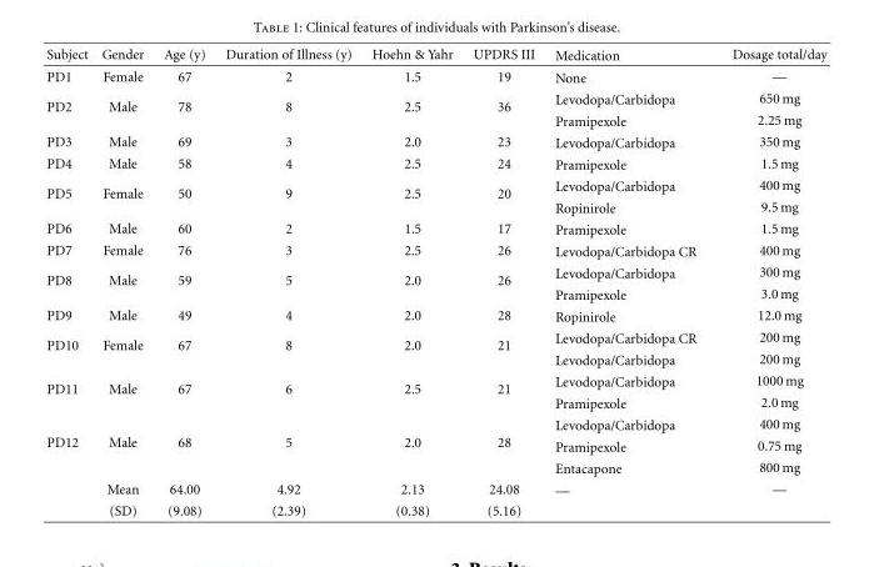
<table><thead><tr><td>Subject</td><td>Gender</td><td>Age (y)</td><td>Duration of Illness (y)</td><td>Hoehn &amp; Yahr</td><td>UPDRS III</td><td>Medication</td><td>Dosage total/day</td></tr></thead><tbody><tr><td>PD1</td><td>Female</td><td>67</td><td>2</td><td>1.5</td><td>19</td><td>None</td><td>—</td></tr><tr><td rowspan="2">PD2</td><td rowspan="2">Male</td><td rowspan="2">78</td><td rowspan="2">8</td><td rowspan="2">2.5</td><td rowspan="2">36</td><td>Levodopa/Carbidopa</td><td>650 mg</td></tr><tr><td>Pramipexole</td><td>2.25 mg</td></tr><tr><td>PD3</td><td>Male</td><td>69</td><td>3</td><td>2.0</td><td>23</td><td>Levodopa/Carbidopa</td><td>350 mg</td></tr><tr><td>PD4</td><td>Male</td><td>58</td><td>4</td><td>2.5</td><td>24</td><td>Pramipexole</td><td>1.5 mg</td></tr><tr><td rowspan="2">PD5</td><td rowspan="2">Female</td><td rowspan="2">50</td><td rowspan="2">9</td><td rowspan="2">2.5</td><td rowspan="2">20</td><td>Levodopa/Carbidopa</td><td>400 mg</td></tr><tr><td>Ropinirole</td><td>9.5 mg</td></tr><tr><td>PD6</td><td>Male</td><td>60</td><td>2</td><td>1.5</td><td>17</td><td>Pramipexole</td><td>1.5 mg</td></tr><tr><td>PD7</td><td>Female</td><td>76</td><td>3</td><td>2.5</td><td>26</td><td>Levodopa/Carbidopa CR</td><td>400 mg</td></tr><tr><td rowspan="2">PD8</td><td rowspan="2">Male</td><td rowspan="2">59</td><td rowspan="2">5</td><td rowspan="2">2.0</td><td rowspan="2">26</td><td>Levodopa/Carbidopa</td><td>300 mg</td></tr><tr><td>Pramipexole</td><td>3.0 mg</td></tr><tr><td>PD9</td><td>Male</td><td>49</td><td>4</td><td>2.0</td><td>28</td><td>Ropinirole</td><td>12.0 mg</td></tr><tr><td rowspan="2">PD10</td><td rowspan="2">Female</td><td rowspan="2">67</td><td rowspan="2">8</td><td rowspan="2">2.0</td><td rowspan="2">21</td><td>Levodopa/Carbidopa CR</td><td>200 mg</td></tr><tr><td>Levodopa/Carbidopa</td><td>200 mg</td></tr><tr><td rowspan="2">PD11</td><td rowspan="2">Male</td><td rowspan="2">67</td><td rowspan="2">6</td><td rowspan="2">2.5</td><td rowspan="2">21</td><td>Levodopa/Carbidopa</td><td>1000 mg</td></tr><tr><td>Pramipexole</td><td>2.0 mg</td></tr><tr><td rowspan="5">PD12</td><td rowspan="3">Male</td><td rowspan="3">68</td><td rowspan="3">5</td><td rowspan="3">2.0</td><td rowspan="3">28</td><td>Levodopa/Carbidopa</td><td>400 mg</td></tr><tr><td>Pramipexole</td><td>0.75 mg</td></tr><tr><td>Entacapone</td><td>800 mg</td></tr><tr><td>Mean</td><td>64.00</td><td>4.92</td><td>2.13</td><td>24.08</td><td>—</td><td>—</td></tr><tr><td>(SD)</td><td>(9.08)</td><td>(2.39)</td><td>(0.38)</td><td>(5.16)</td><td></td><td></td></tr></tbody></table>